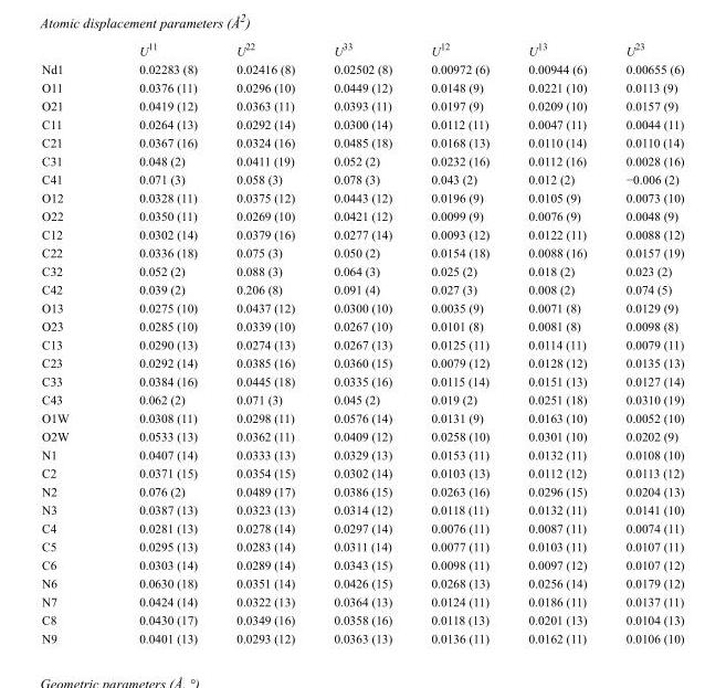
<table><thead><tr><td></td><td>U<sup>11</sup></td><td>U<sup>22</sup></td><td>U<sup>33</sup></td><td>U<sup>12</sup></td><td>U<sup>13</sup></td><td>U<sup>23</sup></td></tr></thead><tbody><tr><td>Nd1</td><td>0.02283 (8)</td><td>0.02416 (8)</td><td>0.02502 (8)</td><td>0.00972 (6)</td><td>0.00944 (6)</td><td>0.00655 (6)</td></tr><tr><td>O11</td><td>0.0376 (11)</td><td>0.0296 (10)</td><td>0.0449 (12)</td><td>0.0148 (9)</td><td>0.0221 (10)</td><td>0.0113 (9)</td></tr><tr><td>O21</td><td>0.0419 (12)</td><td>0.0363 (11)</td><td>0.0393 (11)</td><td>0.0197 (9)</td><td>0.0209 (10)</td><td>0.0157 (9)</td></tr><tr><td>C11</td><td>0.0264 (13)</td><td>0.0292 (14)</td><td>0.0300 (14)</td><td>0.0112 (11)</td><td>0.0047 (11)</td><td>0.0044 (11)</td></tr><tr><td>C21</td><td>0.0367 (16)</td><td>0.0324 (16)</td><td>0.0485 (18)</td><td>0.0168 (13)</td><td>0.0110 (14)</td><td>0.0110 (14)</td></tr><tr><td>C31</td><td>0.048 (2)</td><td>0.0411 (19)</td><td>0.052 (2)</td><td>0.0232 (16)</td><td>0.0112 (16)</td><td>0.0028 (16)</td></tr><tr><td>C41</td><td>0.071 (3)</td><td>0.058 (3)</td><td>0.078 (3)</td><td>0.043 (2)</td><td>0.012 (2)</td><td>−0.006 (2)</td></tr><tr><td>O12</td><td>0.0328 (11)</td><td>0.0375 (12)</td><td>0.0443 (12)</td><td>0.0196 (9)</td><td>0.0105 (9)</td><td>0.0073 (10)</td></tr><tr><td>O22</td><td>0.0350 (11)</td><td>0.0269 (10)</td><td>0.0421 (12)</td><td>0.0099 (9)</td><td>0.0076 (9)</td><td>0.0048 (9)</td></tr><tr><td>C12</td><td>0.0302 (14)</td><td>0.0379 (16)</td><td>0.0277 (14)</td><td>0.0093 (12)</td><td>0.0122 (11)</td><td>0.0088 (12)</td></tr><tr><td>C22</td><td>0.0336 (18)</td><td>0.075 (3)</td><td>0.050 (2)</td><td>0.0154 (18)</td><td>0.0088 (16)</td><td>0.0157 (19)</td></tr><tr><td>C32</td><td>0.052 (2)</td><td>0.088 (3)</td><td>0.064 (3)</td><td>0.025 (2)</td><td>0.018 (2)</td><td>0.023 (2)</td></tr><tr><td>C42</td><td>0.039 (2)</td><td>0.206 (8)</td><td>0.091 (4)</td><td>0.027 (3)</td><td>0.008 (2)</td><td>0.074 (5)</td></tr><tr><td>O13</td><td>0.0275 (10)</td><td>0.0437 (12)</td><td>0.0300 (10)</td><td>0.0035 (9)</td><td>0.0071 (8)</td><td>0.0129 (9)</td></tr><tr><td>O23</td><td>0.0285 (10)</td><td>0.0339 (10)</td><td>0.0267 (10)</td><td>0.0101 (8)</td><td>0.0081 (8)</td><td>0.0098 (8)</td></tr><tr><td>C13</td><td>0.0290 (13)</td><td>0.0274 (13)</td><td>0.0267 (13)</td><td>0.0125 (11)</td><td>0.0114 (11)</td><td>0.0079 (11)</td></tr><tr><td>C23</td><td>0.0292 (14)</td><td>0.0385 (16)</td><td>0.0360 (15)</td><td>0.0079 (12)</td><td>0.0128 (12)</td><td>0.0135 (13)</td></tr><tr><td>C33</td><td>0.0384 (16)</td><td>0.0445 (18)</td><td>0.0335 (16)</td><td>0.0115 (14)</td><td>0.0151 (13)</td><td>0.0127 (14)</td></tr><tr><td>C43</td><td>0.062 (2)</td><td>0.071 (3)</td><td>0.045 (2)</td><td>0.019 (2)</td><td>0.0251 (18)</td><td>0.0310 (19)</td></tr><tr><td>O1W</td><td>0.0308 (11)</td><td>0.0298 (11)</td><td>0.0576 (14)</td><td>0.0131 (9)</td><td>0.0163 (10)</td><td>0.0052 (10)</td></tr><tr><td>O2W</td><td>0.0533 (13)</td><td>0.0362 (11)</td><td>0.0409 (12)</td><td>0.0258 (10)</td><td>0.0301 (10)</td><td>0.0202 (9)</td></tr><tr><td>N1</td><td>0.0407 (14)</td><td>0.0333 (13)</td><td>0.0329 (13)</td><td>0.0153 (11)</td><td>0.0132 (11)</td><td>0.0108 (10)</td></tr><tr><td>C2</td><td>0.0371 (15)</td><td>0.0354 (15)</td><td>0.0302 (14)</td><td>0.0103 (13)</td><td>0.0112 (12)</td><td>0.0113 (12)</td></tr><tr><td>N2</td><td>0.076 (2)</td><td>0.0489 (17)</td><td>0.0386 (15)</td><td>0.0263 (16)</td><td>0.0296 (15)</td><td>0.0204 (13)</td></tr><tr><td>N3</td><td>0.0387 (13)</td><td>0.0323 (13)</td><td>0.0314 (12)</td><td>0.0118 (11)</td><td>0.0132 (11)</td><td>0.0141 (10)</td></tr><tr><td>C4</td><td>0.0281 (13)</td><td>0.0278 (14)</td><td>0.0297 (14)</td><td>0.0076 (11)</td><td>0.0087 (11)</td><td>0.0074 (11)</td></tr><tr><td>C5</td><td>0.0295 (13)</td><td>0.0283 (14)</td><td>0.0311 (14)</td><td>0.0077 (11)</td><td>0.0103 (11)</td><td>0.0107 (11)</td></tr><tr><td>C6</td><td>0.0303 (14)</td><td>0.0289 (14)</td><td>0.0343 (15)</td><td>0.0098 (11)</td><td>0.0097 (12)</td><td>0.0107 (12)</td></tr><tr><td>N6</td><td>0.0630 (18)</td><td>0.0351 (14)</td><td>0.0426 (15)</td><td>0.0268 (13)</td><td>0.0256 (14)</td><td>0.0179 (12)</td></tr><tr><td>N7</td><td>0.0424 (14)</td><td>0.0322 (13)</td><td>0.0364 (13)</td><td>0.0124 (11)</td><td>0.0186 (11)</td><td>0.0137 (11)</td></tr><tr><td>C8</td><td>0.0430 (17)</td><td>0.0349 (16)</td><td>0.0358 (16)</td><td>0.0118 (13)</td><td>0.0201 (13)</td><td>0.0104 (13)</td></tr><tr><td>N9</td><td>0.0401 (13)</td><td>0.0293 (12)</td><td>0.0363 (13)</td><td>0.0136 (11)</td><td>0.0162 (11)</td><td>0.0106 (10)</td></tr></tbody></table>